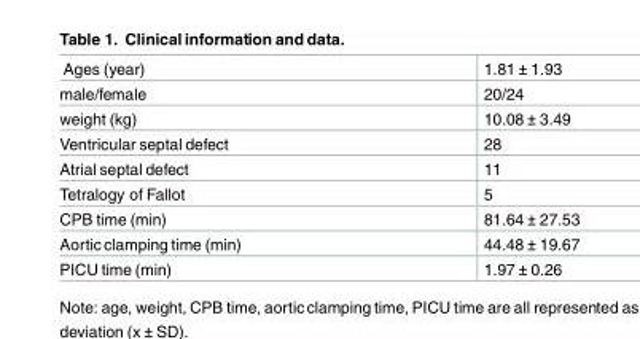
<table><tbody><tr><td>Ages (year)</td><td>1.81 ± 1.93</td></tr><tr><td>male/female</td><td>20/24</td></tr><tr><td>weight (kg)</td><td>10.08 ± 3.49</td></tr><tr><td>Ventricular septal defect</td><td>28</td></tr><tr><td>Atrial septal defect</td><td>11</td></tr><tr><td>Tetralogy of Fallot</td><td>5</td></tr><tr><td>CPB time (min)</td><td>81.64 ± 27.53</td></tr><tr><td>Aortic clamping time (min)</td><td>44.48 ± 19.67</td></tr><tr><td>PICU time (min)</td><td>1.97 ± 0.26</td></tr></tbody></table>